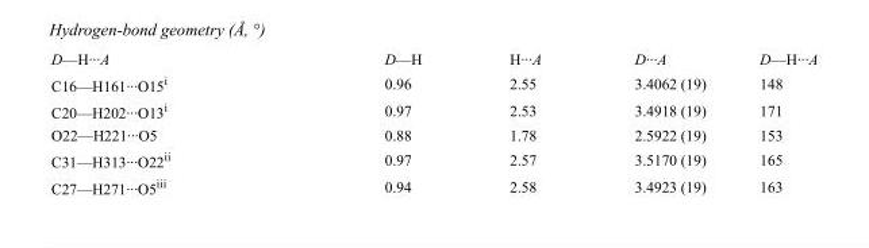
<table><tbody><tr><td>D—H···A</td><td>D—H</td><td>H···A</td><td>D···A</td><td>D—H···A</td></tr><tr><td>C16—H161···O15<sup>i</sup></td><td>0.96</td><td>2.55</td><td>3.4062 (19)</td><td>148</td></tr><tr><td>C20—H202···O13<sup>i</sup></td><td>0.97</td><td>2.53</td><td>3.4918 (19)</td><td>171</td></tr><tr><td>O22—H221···O5</td><td>0.88</td><td>1.78</td><td>2.5922 (19)</td><td>153</td></tr><tr><td>C31—H313···O22<sup>ii</sup></td><td>0.97</td><td>2.57</td><td>3.5170 (19)</td><td>165</td></tr><tr><td>C27—H271···O5<sup>iii</sup></td><td>0.94</td><td>2.58</td><td>3.4923 (19)</td><td>163</td></tr></tbody></table>